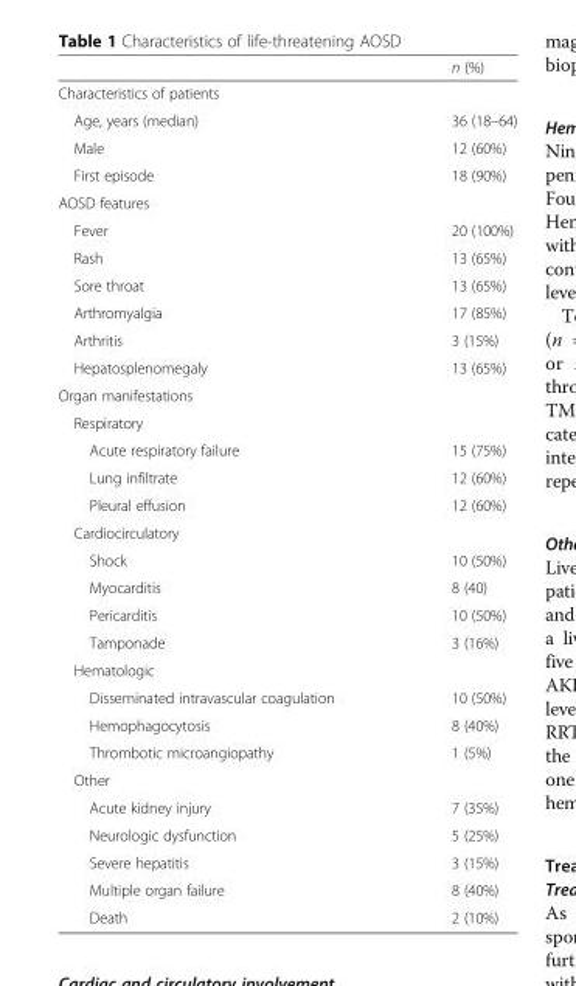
<table><thead><tr><td></td><td>n (%)</td></tr></thead><tbody><tr><td colspan="2">Characteristics of patients</td></tr><tr><td>Age, years (median)</td><td>36 (18–64)</td></tr><tr><td>Male</td><td>12 (60%)</td></tr><tr><td>First episode</td><td>18 (90%)</td></tr><tr><td colspan="2">AOSD features</td></tr><tr><td>Fever</td><td>20 (100%)</td></tr><tr><td>Rash</td><td>13 (65%)</td></tr><tr><td>Sore throat</td><td>13 (65%)</td></tr><tr><td>Arthromyalgia</td><td>17 (85%)</td></tr><tr><td>Arthritis</td><td>3 (15%)</td></tr><tr><td>Hepatosplenomegaly</td><td>13 (65%)</td></tr><tr><td colspan="2">Organ manifestations</td></tr><tr><td colspan="2">Respiratory</td></tr><tr><td>Acute respiratory failure</td><td>15 (75%)</td></tr><tr><td>Lung infiltrate</td><td>12 (60%)</td></tr><tr><td>Pleural effusion</td><td>12 (60%)</td></tr><tr><td colspan="2">Cardiocirculatory</td></tr><tr><td>Shock</td><td>10 (50%)</td></tr><tr><td>Myocarditis</td><td>8 (40)</td></tr><tr><td>Pericarditis</td><td>10 (50%)</td></tr><tr><td>Tamponade</td><td>3 (16%)</td></tr><tr><td colspan="2">Hematologic</td></tr><tr><td>Disseminated intravascular coagulation</td><td>10 (50%)</td></tr><tr><td>Hemophagocytosis</td><td>8 (40%)</td></tr><tr><td>Thrombotic microangiopathy</td><td>1 (5%)</td></tr><tr><td colspan="2">Other</td></tr><tr><td>Acute kidney injury</td><td>7 (35%)</td></tr><tr><td>Neurologic dysfunction</td><td>5 (25%)</td></tr><tr><td>Severe hepatitis</td><td>3 (15%)</td></tr><tr><td>Multiple organ failure</td><td>8 (40%)</td></tr><tr><td>Death</td><td>2 (10%)</td></tr></tbody></table>